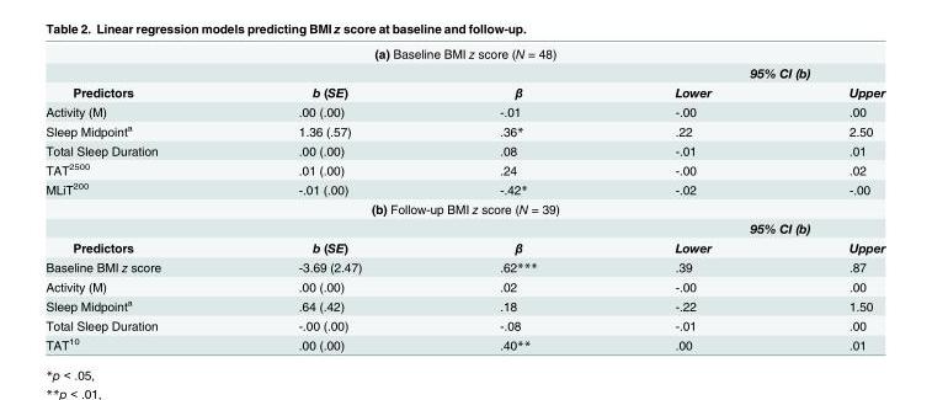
<table><tbody><tr><td colspan="5">(a) Baseline BMI z score (N = 48)</td></tr><tr><td></td><td></td><td></td><td colspan="2">95% CI (b)</td></tr><tr><td>Predictors</td><td>b (SE)</td><td>β</td><td>Lower</td><td>Upper</td></tr><tr><td>Activity (M)</td><td>.00 (.00)</td><td>-.01</td><td>-.00</td><td>.00</td></tr><tr><td>Sleep Midpoint<sup>a</sup></td><td>1.36 (.57)</td><td>.36*</td><td>.22</td><td>2.50</td></tr><tr><td>Total Sleep Duration</td><td>.00 (.00)</td><td>.08</td><td>-.01</td><td>.01</td></tr><tr><td>TAT<sup>2500</sup></td><td>.01 (.00)</td><td>.24</td><td>-.00</td><td>.02</td></tr><tr><td>MLiT<sup>200</sup></td><td>-.01 (.00)</td><td>-.42*</td><td>-.02</td><td>-.00</td></tr><tr><td colspan="5">(b) Follow-up BMI z score (N = 39)</td></tr><tr><td></td><td></td><td></td><td colspan="2">95% CI (b)</td></tr><tr><td>Predictors</td><td>b (SE)</td><td>β</td><td>Lower</td><td>Upper</td></tr><tr><td>Baseline BMI z score</td><td>-3.69 (2.47)</td><td>.62***</td><td>.39</td><td>.87</td></tr><tr><td>Activity (M)</td><td>.00 (.00)</td><td>.02</td><td>-.00</td><td>.00</td></tr><tr><td>Sleep Midpoint<sup>a</sup></td><td>.64 (.42)</td><td>.18</td><td>-.22</td><td>1.50</td></tr><tr><td>Total Sleep Duration</td><td>-.00 (.00)</td><td>-.08</td><td>-.01</td><td>.00</td></tr><tr><td>TAT<sup>10</sup></td><td>.00 (.00)</td><td>.40**</td><td>.00</td><td>.01</td></tr></tbody></table>